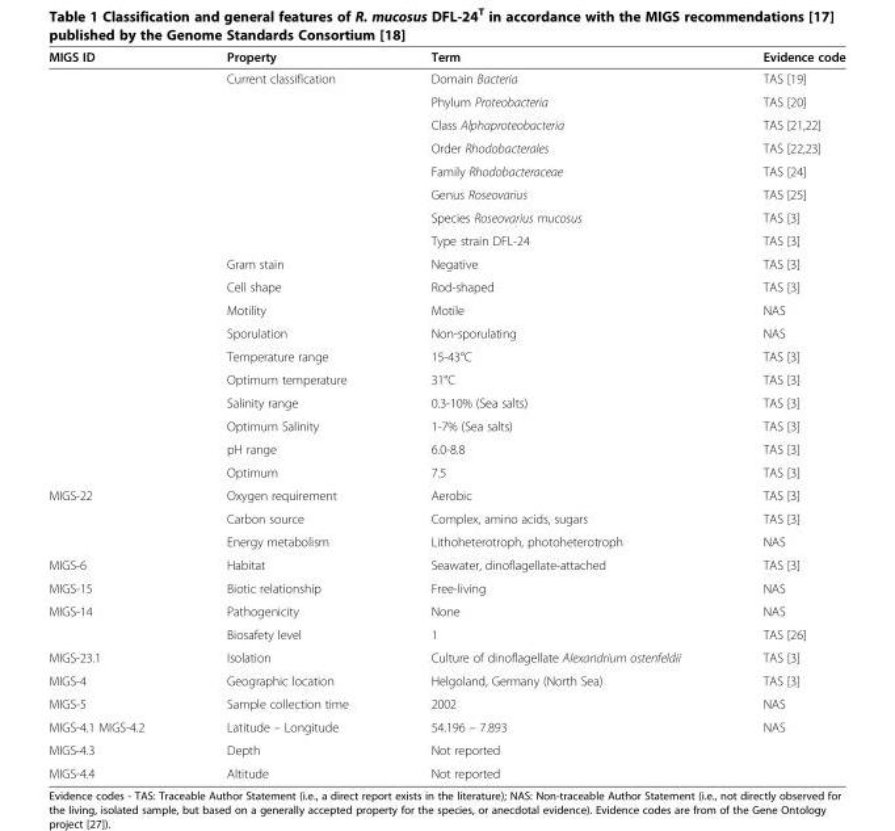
<table><thead><tr><td>MIGS ID</td><td>Property</td><td>Term</td><td>Evidence code</td></tr></thead><tbody><tr><td rowspan="8"></td><td rowspan="8">Current classification</td><td>Domain Bacteria</td><td>TAS [19]</td></tr><tr><td>Phylum Proteobacteria</td><td>TAS [20]</td></tr><tr><td>Class Alphaproteobacteria</td><td>TAS [21,22]</td></tr><tr><td>Order Rhodobacterales</td><td>TAS [22,23]</td></tr><tr><td>Family Rhodobacteraceae</td><td>TAS [24]</td></tr><tr><td>Genus Roseovarius</td><td>TAS [25]</td></tr><tr><td>Species Roseovarius mucosus</td><td>TAS [3]</td></tr><tr><td>Type strain DFL-24</td><td>TAS [3]</td></tr><tr><td></td><td>Gram stain</td><td>Negative</td><td>TAS [3]</td></tr><tr><td></td><td>Cell shape</td><td>Rod-shaped</td><td>TAS [3]</td></tr><tr><td></td><td>Motility</td><td>Motile</td><td>NAS</td></tr><tr><td></td><td>Sporulation</td><td>Non-sporulating</td><td>NAS</td></tr><tr><td></td><td>Temperature range</td><td>15-43°C</td><td>TAS [3]</td></tr><tr><td></td><td>Optimum temperature</td><td>31°C</td><td>TAS [3]</td></tr><tr><td></td><td>Salinity range</td><td>0.3-10% (Sea salts)</td><td>TAS [3]</td></tr><tr><td></td><td>Optimum Salinity</td><td>1-7% (Sea salts)</td><td>TAS [3]</td></tr><tr><td></td><td>pH range</td><td>6.0-8.8</td><td>TAS [3]</td></tr><tr><td></td><td>Optimum</td><td>7.5</td><td>TAS [3]</td></tr><tr><td rowspan="3">MIGS-22</td><td>Oxygen requirement</td><td>Aerobic</td><td>TAS [3]</td></tr><tr><td>Carbon source</td><td>Complex, amino acids, sugars</td><td>TAS [3]</td></tr><tr><td>Energy metabolism</td><td>Lithoheterotroph, photoheterotroph</td><td>NAS</td></tr><tr><td>MIGS-6</td><td>Habitat</td><td>Seawater, dinoflagellate-attached</td><td>TAS [3]</td></tr><tr><td>MIGS-15</td><td>Biotic relationship</td><td>Free-living</td><td>NAS</td></tr><tr><td rowspan="2">MIGS-14</td><td>Pathogenicity</td><td>None</td><td>NAS</td></tr><tr><td>Biosafety level</td><td>1</td><td>TAS [26]</td></tr><tr><td>MIGS-23.1</td><td>Isolation</td><td>Culture of dinoflagellate Alexandrium ostenfeldii</td><td>TAS [3]</td></tr><tr><td>MIGS-4</td><td>Geographic location</td><td>Helgoland, Germany (North Sea)</td><td>TAS [3]</td></tr><tr><td>MIGS-5</td><td>Sample collection time</td><td>2002</td><td>NAS</td></tr><tr><td>MIGS-4.1 MIGS-4.2</td><td>Latitude – Longitude</td><td>54.196 – 7.893</td><td>NAS</td></tr><tr><td>MIGS-4.3</td><td>Depth</td><td>Not reported</td><td></td></tr><tr><td>MIGS-4.4</td><td>Altitude</td><td>Not reported</td><td></td></tr></tbody></table>